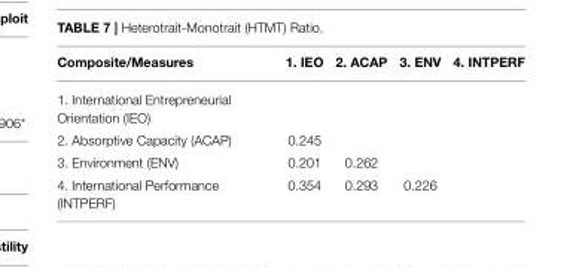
<table><thead><tr><td>Composite/Measures</td><td>1. IEO</td><td>2. ACAP</td><td>3. ENV</td><td>4. INTPERF</td></tr></thead><tbody><tr><td colspan="5">1. International Entrepreneurial Orientation (IEO)</td></tr><tr><td>2. Absorptive Capacity (ACAP)</td><td>0.245</td><td></td><td></td><td></td></tr><tr><td>3. Environment (ENV)</td><td>0.201</td><td>0.262</td><td></td><td></td></tr><tr><td>4. International Performance (INTPERF)</td><td>0.354</td><td>0.293</td><td>0.226</td><td></td></tr></tbody></table>